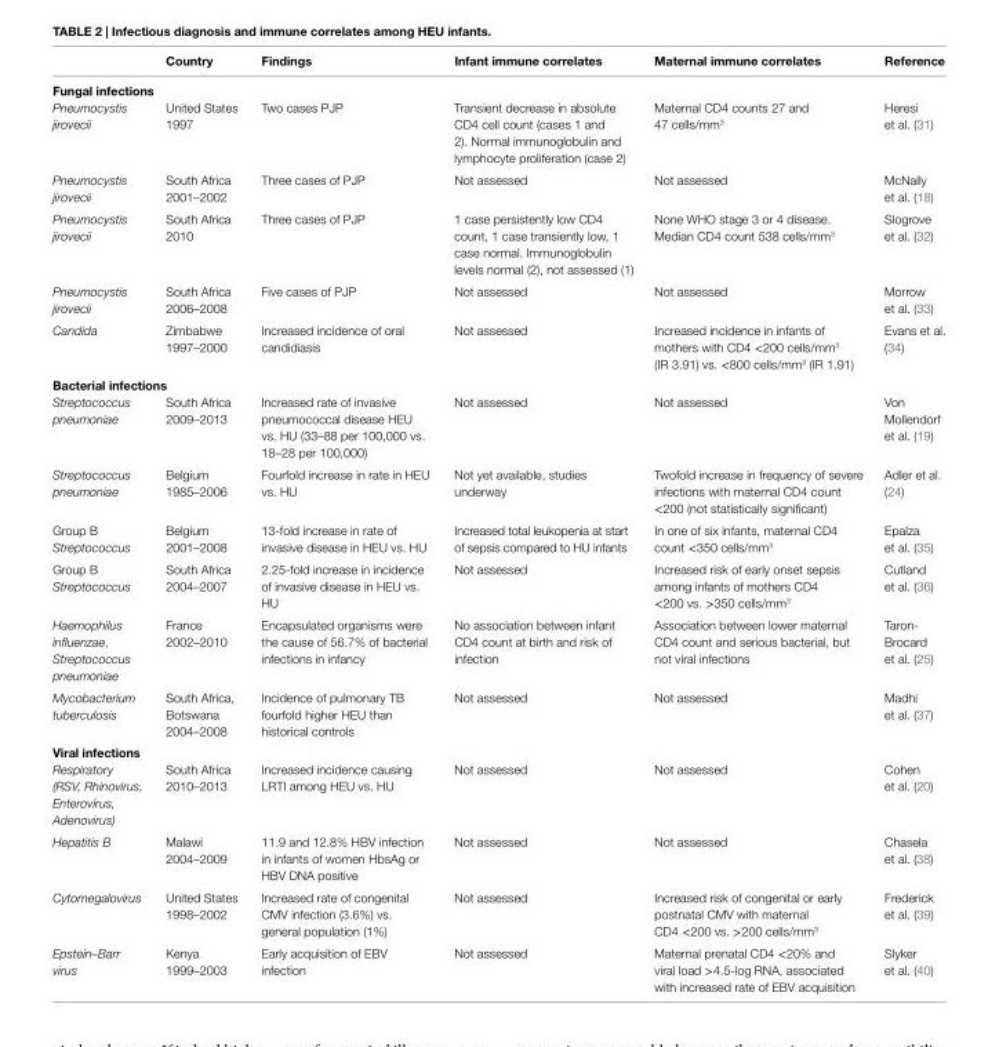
<table><thead><tr><td></td><td>Country</td><td>Findings</td><td>infant immune correlates</td><td>Maternal immune correlates</td><td>Reference</td></tr></thead><tbody><tr><td colspan="6">Fungal infections</td></tr><tr><td>Pneumocystis jirovecii</td><td>United States 1997</td><td>Two cases PJP</td><td>Transient decrease in absolute CD4 cell count (cases 1 and 2). Normal immunoglobulin and lymphocyte proliferation (case 2)</td><td>Maternal CD4 counts 27 and 47 cells/mm<sup>3</sup></td><td>Heresi et al. (31)</td></tr><tr><td>Pneumocystis jirovecii</td><td>South Africa 2001–2002</td><td>Three cases of PJP</td><td>Not assessed</td><td>Not assessed</td><td>McNally et al. (18)</td></tr><tr><td>Pneumocystis jirovecii</td><td>South Africa 2010</td><td>Three cases of PJP</td><td>1 case persistently low CD4 count, 1 case transiently low, 1 case normal. Immunoglobulin levels normal (2), not assessed (1)</td><td>None WHO stage 3 or 4 disease. Median CD4 count 538 cells/mm<sup>3</sup></td><td>Slogrove et al. (32)</td></tr><tr><td>Pneumocystis jirovecii</td><td>South Africa 2006–2008</td><td>Five cases of PJP</td><td>Not assessed</td><td>Not assessed</td><td>Morrow et al. (33)</td></tr><tr><td>Candida</td><td>Zimbabwe 1997–2000</td><td>Increased incidence of oral candidiasis</td><td>Not assessed</td><td>Increased incidence in infants of mothers with CD4 &lt;200 cells/mm<sup>3</sup> (IR 3.91) vs. &lt;800 cells/mm<sup>3</sup> (IR 1.91)</td><td>Evans et al. (34)</td></tr><tr><td colspan="6">bacterial infections</td></tr><tr><td>Streptococcus pneumoniae</td><td>South Africa 2009–2013</td><td>Increased rate of invasive pneumococcal disease HEU vs. HU (33–88 per 100,000 vs. 18–28 per 100,000)</td><td>Not assessed</td><td>Not assessed</td><td>Von Mollendorf et al. (19)</td></tr><tr><td>Streptococcus pneumoniae</td><td>Belgium 1985–2006</td><td>Fourfold increase in rate in HEU vs. HU</td><td>Not yet available, studies underway</td><td>Twofold increase in frequency of severe infections with maternal CD4 count &lt;200 (not statistically significant)</td><td>Adler et al. (24)</td></tr><tr><td>Group B Streptococcus</td><td>Belgium 2001–2008</td><td>13-fold increase in rate of invasive disease in HEU vs. HU</td><td>Increased total leukopenia at start of sepsis compared to HU infants</td><td>In one of six infants, maternal CD4 count &lt;350 cells/mm<sup>3</sup></td><td>Epalza et al. (35)</td></tr><tr><td>Group B Streptococcus</td><td>South Africa 2004–2007</td><td>2.25-fold increase in incidence of invasive disease in HEU vs. HU</td><td>Not assessed</td><td>Increased risk of early onset sepsis among infants of mothers CD4 &lt;200 vs. &gt;350 cells/mm<sup>3</sup></td><td>Cutland et al. (36)</td></tr><tr><td>Haemophilus influenzae, Streptococcus pneumoniae</td><td>France 2002–2010</td><td>Encapsulated organisms were the cause of 56.7% of bacterial infections in infancy</td><td>No association between infant CD4 count at birth and risk of infection</td><td>Association between lower maternal CD4 count and serious bacterial, but not viral infections</td><td>Taron- Brocard et al. (25)</td></tr><tr><td>Mycobacterium tuberculosis</td><td>South Africa, Botswana 2004–2008</td><td>Incidence of pulmonary TB fourfold higher HEU than historical controls</td><td>Not assessed</td><td>Not assessed</td><td>Madhi et al. (37)</td></tr><tr><td colspan="6">viral infections</td></tr><tr><td>Respiratory (RSV, Rhinovirus, Enterovirus, Adenovirus)</td><td>South Africa 2010–2013</td><td>Increased incidence causing LRTI among HEU vs. HU</td><td>Not assessed</td><td>Not assessed</td><td>Cohen et al. (20)</td></tr><tr><td>Hepatitis B</td><td>Malawi 2004–2009</td><td>11.9 and 12.8% HBV infection in infants of women HbsAg or HBV DNA positive</td><td>Not assessed</td><td>Not assessed</td><td>Chasela et al. (38)</td></tr><tr><td>Cytomegalovirus</td><td>United States 1998–2002</td><td>Increased rate of congenital CMV infection (3.6%) vs. general population (1%)</td><td>Not assessed</td><td>Increased risk of congenital or early postnatal CMV with maternal CD4 &lt;200 vs. &gt;200 cells/mm<sup>3</sup></td><td>Frederick et al. (39)</td></tr><tr><td>Epstein–Barr virus</td><td>Kenya 1999–2003</td><td>Early acquisition of EBV infection</td><td>Not assessed</td><td>Maternal prenatal CD4 &lt;20% and viral load &gt;4.5-log RNA, associated with increased rate of EBV acquisition</td><td>Slyker et al. (40)</td></tr></tbody></table>